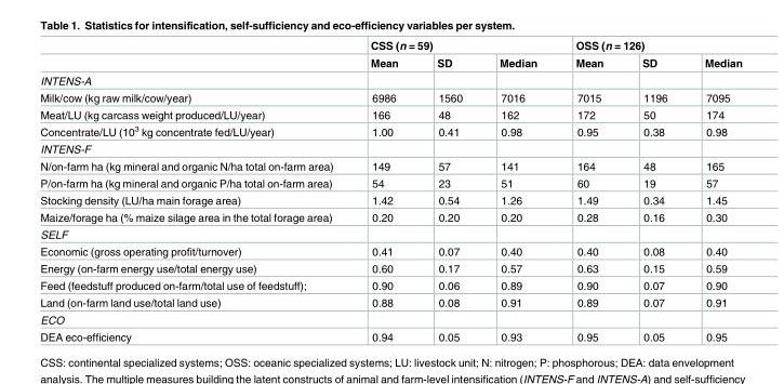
<table><thead><tr><td rowspan="2"></td><td colspan="3">CSS (n = 59)</td><td colspan="3">OSS (n = 126)</td></tr><tr><td>Mean</td><td>SD</td><td>Median</td><td>Mean</td><td>SD</td><td>Median</td></tr></thead><tbody><tr><td colspan="7">INTENS-A</td></tr><tr><td>Milk/cow (kg raw milk/cow/year)</td><td>6986</td><td>1560</td><td>7016</td><td>7015</td><td>1196</td><td>7095</td></tr><tr><td>Meat/LU (kg carcass weight produced/LU/year)</td><td>166</td><td>48</td><td>162</td><td>172</td><td>50</td><td>174</td></tr><tr><td>Concentrate/LU (10<sup>3</sup> kg concentrate fed/LU/year)</td><td>1.00</td><td>0.41</td><td>0.98</td><td>0.95</td><td>0.38</td><td>0.98</td></tr><tr><td colspan="7">INTENS-F</td></tr><tr><td>N/on-farm ha (kg mineral and organic N/ha total on-farm area)</td><td>149</td><td>57</td><td>141</td><td>164</td><td>48</td><td>165</td></tr><tr><td>P/on-farm ha (kg mineral and organic P/ha total on-farm area)</td><td>54</td><td>23</td><td>51</td><td>60</td><td>19</td><td>57</td></tr><tr><td>Stocking density (LU/ha main forage area)</td><td>1.42</td><td>0.54</td><td>1.26</td><td>1.49</td><td>0.34</td><td>1.45</td></tr><tr><td>Maize/forage ha (% maize silage area in the total forage area)</td><td>0.20</td><td>0.20</td><td>0.20</td><td>0.28</td><td>0.16</td><td>0.30</td></tr><tr><td colspan="7">SELF</td></tr><tr><td>Economic (gross operating profit/turnover)</td><td>0.41</td><td>0.07</td><td>0.40</td><td>0.40</td><td>0.08</td><td>0.40</td></tr><tr><td>Energy (on-farm energy use/total energy use)</td><td>0.60</td><td>0.17</td><td>0.57</td><td>0.63</td><td>0.15</td><td>0.59</td></tr><tr><td>Feed (feedstuff produced on-farm/total use of feedstuff);</td><td>0.90</td><td>0.06</td><td>0.89</td><td>0.90</td><td>0.07</td><td>0.90</td></tr><tr><td>Land (on-farm land use/total land use)</td><td>0.88</td><td>0.08</td><td>0.91</td><td>0.89</td><td>0.07</td><td>0.91</td></tr><tr><td colspan="7">ECO</td></tr><tr><td>DEA eco-efficiency</td><td>0.94</td><td>0.05</td><td>0.93</td><td>0.95</td><td>0.05</td><td>0.95</td></tr></tbody></table>